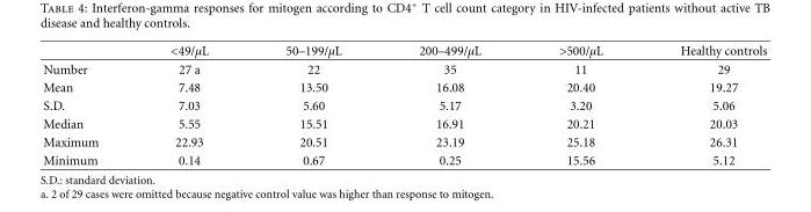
<table><thead><tr><td></td><td>&lt;49/μL</td><td>50–199/μL</td><td>200–499/μL</td><td>&gt;500/μL</td><td>Healthy controls</td></tr></thead><tbody><tr><td>Number</td><td>27 a</td><td>22</td><td>35</td><td>11</td><td>29</td></tr><tr><td>Mean</td><td>7.48</td><td>13.50</td><td>16.08</td><td>20.40</td><td>19.27</td></tr><tr><td>S.D.</td><td>7.03</td><td>5.60</td><td>5.17</td><td>3.20</td><td>5.06</td></tr><tr><td>Median</td><td>5.55</td><td>15.51</td><td>16.91</td><td>20.21</td><td>20.03</td></tr><tr><td>Maximum</td><td>22.93</td><td>20.51</td><td>23.19</td><td>25.18</td><td>26.31</td></tr><tr><td>Minimum</td><td>0.14</td><td>0.67</td><td>0.25</td><td>15.56</td><td>5.12</td></tr></tbody></table>